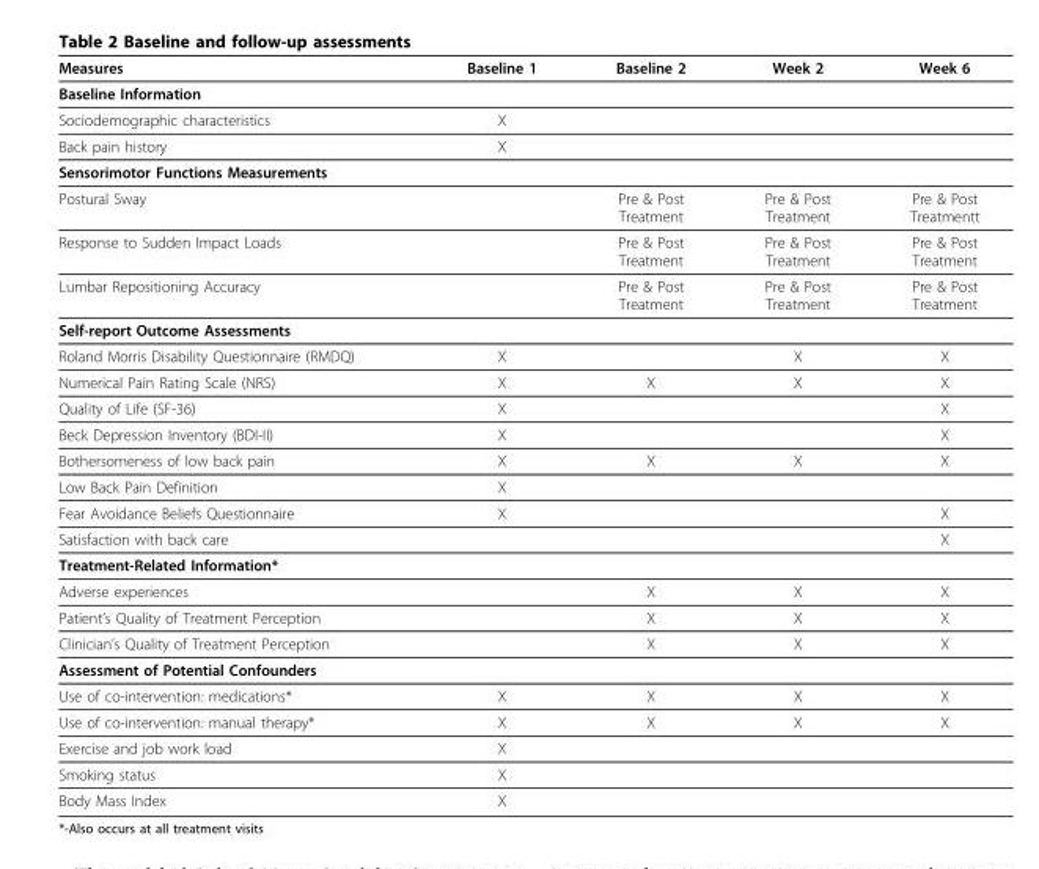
<table><thead><tr><td>Measures</td><td>Baseline 1</td><td>Baseline 2</td><td>Week 2</td><td>Week 6</td></tr></thead><tbody><tr><td colspan="5">Baseline Information</td></tr><tr><td>Sociodemographic characteristics</td><td>X</td><td></td><td></td><td></td></tr><tr><td>Back pain history</td><td>X</td><td></td><td></td><td></td></tr><tr><td colspan="5">Sensorimotor Functions Measurements</td></tr><tr><td>Postural Sway</td><td></td><td>Pre &amp; Post Treatment</td><td>Pre &amp; Post Treatment</td><td>Pre &amp; Post Treatmentt</td></tr><tr><td>Response to Sudden Impact Loads</td><td></td><td>Pre &amp; Post Treatment</td><td>Pre &amp; Post Treatment</td><td>Pre &amp; Post Treatment</td></tr><tr><td>Lumbar Repositioning Accuracy</td><td></td><td>Pre &amp; Post Treatment</td><td>Pre &amp; Post Treatment</td><td>Pre &amp; Post Treatment</td></tr><tr><td colspan="5">Self-report Outcome Assessments</td></tr><tr><td>Roland Morris Disability Questionnaire (RMDQ)</td><td>X</td><td></td><td>X</td><td>X</td></tr><tr><td>Numerical Pain Rating Scale (NRS)</td><td>X</td><td>X</td><td>X</td><td>X</td></tr><tr><td>Quality of Life (SF-36)</td><td>X</td><td></td><td></td><td>X</td></tr><tr><td>Beck Depression Inventory (BDI-II)</td><td>X</td><td></td><td></td><td>X</td></tr><tr><td>Bothersomeness of low back pain</td><td>X</td><td>X</td><td>X</td><td>X</td></tr><tr><td>Low Back Pain Definition</td><td>X</td><td></td><td></td><td></td></tr><tr><td>Fear Avoidance Beliefs Questionnaire</td><td>X</td><td></td><td></td><td>X</td></tr><tr><td>Satisfaction with back care</td><td></td><td></td><td></td><td>X</td></tr><tr><td colspan="5">Treatment-Related Information*</td></tr><tr><td>Adverse experiences</td><td></td><td>X</td><td>X</td><td>X</td></tr><tr><td>Patient’s Quality of Treatment Perception</td><td></td><td>X</td><td>X</td><td>X</td></tr><tr><td>Clinician’s Quality of Treatment Perception</td><td></td><td>X</td><td>X</td><td>X</td></tr><tr><td colspan="5">Assessment of Potential Confounders</td></tr><tr><td>Use of co-intervention: medications*</td><td>X</td><td>X</td><td>X</td><td>X</td></tr><tr><td>Use of co-intervention: manual therapy*</td><td>X</td><td>X</td><td>X</td><td>X</td></tr><tr><td>Exercise and job work load</td><td>X</td><td></td><td></td><td></td></tr><tr><td>Smoking status</td><td>X</td><td></td><td></td><td></td></tr><tr><td>Body Mass Index</td><td>X</td><td></td><td></td><td></td></tr></tbody></table>